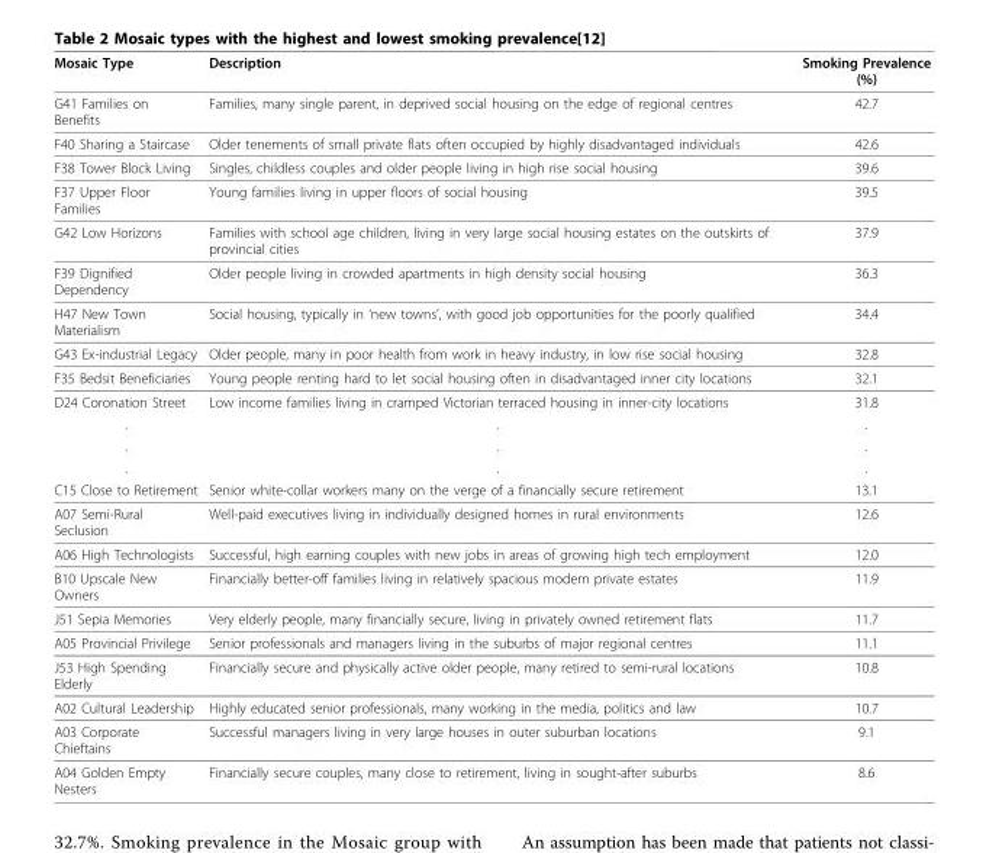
<table><thead><tr><td>Mosaic Type</td><td>Description</td><td>Smoking Prevalence (%)</td></tr></thead><tbody><tr><td>G41 Families on Benefits</td><td>Families, many single parent, in deprived social housing on the edge of regional centres</td><td>42.7</td></tr><tr><td>F40 Sharing a Staircase</td><td>Older tenements of small private flats often occupied by highly disadvantaged individuals</td><td>42.6</td></tr><tr><td>F38 Tower Block Living</td><td>Singles, childless couples and older people living in high rise social housing</td><td>39.6</td></tr><tr><td>F37 Upper Floor Families</td><td>Young families living in upper floors of social housing</td><td>39.5</td></tr><tr><td>G42 Low Horizons</td><td>Families with school age children, living in very large social housing estates on the outskirts of provincial cities</td><td>37.9</td></tr><tr><td>F39 Dignified Dependency</td><td>Older people living in crowded apartments in high density social housing</td><td>36.3</td></tr><tr><td>H47 New Town Materialism</td><td>Social housing, typically in ‘new towns’, with good job opportunities for the poorly qualified</td><td>34.4</td></tr><tr><td>G43 Ex-industrial Legacy</td><td>Older people, many in poor health from work in heavy industry, in low rise social housing</td><td>32.8</td></tr><tr><td>F35 Bedsit Beneficiaries</td><td>Young people renting hard to let social housing often in disadvantaged inner city locations</td><td>32.1</td></tr><tr><td>D24 Coronation Street</td><td>Low income families living in cramped Victorian terraced housing in inner-city locations</td><td>31.8</td></tr><tr><td>.</td><td>.</td><td>.</td></tr><tr><td>.</td><td>.</td><td>.</td></tr><tr><td>.</td><td>.</td><td>.</td></tr><tr><td>C15 Close to Retirement</td><td>Senior white-collar workers many on the verge of a financially secure retirement</td><td>13.1</td></tr><tr><td>A07 Semi-Rural Seclusion</td><td>Well-paid executives living in individually designed homes in rural environments</td><td>12.6</td></tr><tr><td>A06 High Technologists</td><td>Successful, high earning couples with new jobs in areas of growing high tech employment</td><td>12.0</td></tr><tr><td>B10 Upscale New Owners</td><td>Financially better-off families living in relatively spacious modern private estates</td><td>11.9</td></tr><tr><td>J51 Sepia Memories</td><td>Very elderly people, many financially secure, living in privately owned retirement flats</td><td>11.7</td></tr><tr><td>A05 Provincial Privilege</td><td>Senior professionals and managers living in the suburbs of major regional centres</td><td>11.1</td></tr><tr><td>J53 High Spending Elderly</td><td>Financially secure and physically active older people, many retired to semi-rural locations</td><td>10.8</td></tr><tr><td>A02 Cultural Leadership</td><td>Highly educated senior professionals, many working in the media, politics and law</td><td>10.7</td></tr><tr><td>A03 Corporate Chieftains</td><td>Successful managers living in very large houses in outer suburban locations</td><td>9.1</td></tr><tr><td>A04 Golden Empty Nesters</td><td>Financially secure couples, many close to retirement, living in sought-after suburbs</td><td>8.6</td></tr></tbody></table>